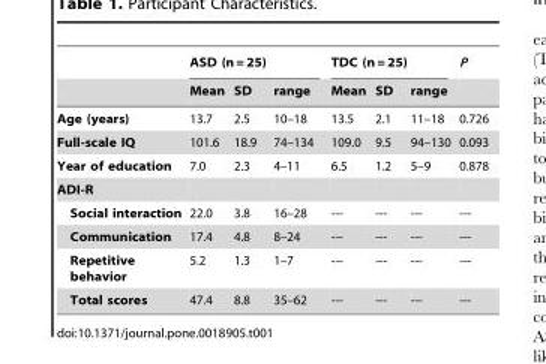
<table><thead><tr><td rowspan="2"></td><td colspan="3">ASD (n = 25)</td><td colspan="3">TDC (n = 25)</td><td rowspan="2">P</td></tr><tr><td>Mean</td><td>SD</td><td>range</td><td>Mean</td><td>SD</td><td>range</td></tr></thead><tbody><tr><td>Age (years)</td><td>13.7</td><td>2.5</td><td>10–18</td><td>13.5</td><td>2.1</td><td>11–18</td><td>0.726</td></tr><tr><td>Full-scale IQ</td><td>101.6</td><td>18.9</td><td>74–134</td><td>109.0</td><td>9.5</td><td>94–130</td><td>0.093</td></tr><tr><td>Year of education</td><td>7.0</td><td>2.3</td><td>4–11</td><td>6.5</td><td>1.2</td><td>5–9</td><td>0.878</td></tr><tr><td colspan="8">ADI-R</td></tr><tr><td>Social interaction</td><td>22.0</td><td>3.8</td><td>16–28</td><td>---</td><td>---</td><td>---</td><td>---</td></tr><tr><td>Communication</td><td>17.4</td><td>4.8</td><td>8–24</td><td>---</td><td>---</td><td>---</td><td>---</td></tr><tr><td>Repetitive behavior</td><td>5.2</td><td>1.3</td><td>1–7</td><td>---</td><td>---</td><td>---</td><td>---</td></tr><tr><td>Total scores</td><td>47.4</td><td>8.8</td><td>35–62</td><td>---</td><td>---</td><td>---</td><td>---</td></tr></tbody></table>